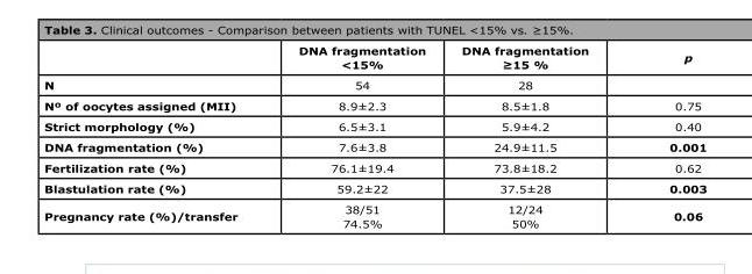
<table><thead><tr><td></td><td>DNA fragmentation &lt;15%</td><td>DNA fragmentation ≥15 %</td><td>p</td></tr></thead><tbody><tr><td>N</td><td>54</td><td>28</td><td></td></tr><tr><td>Nº of oocytes assigned (MII)</td><td>8.9±2.3</td><td>8.5±1.8</td><td>0.75</td></tr><tr><td>Strict morphology (%)</td><td>6.5±3.1</td><td>5.9±4.2</td><td>0.40</td></tr><tr><td>DNA fragmentation (%)</td><td>7.6±3.8</td><td>24.9±11.5</td><td>0.001</td></tr><tr><td>Fertilization rate (%)</td><td>76.1±19.4</td><td>73.8±18.2</td><td>0.62</td></tr><tr><td>Blastulation rate (%)</td><td>59.2±22</td><td>37.5±28</td><td>0.003</td></tr><tr><td>Pregnancy rate (%)/transfer</td><td>38/51 74.5%</td><td>12/24 50%</td><td>0.06</td></tr></tbody></table>